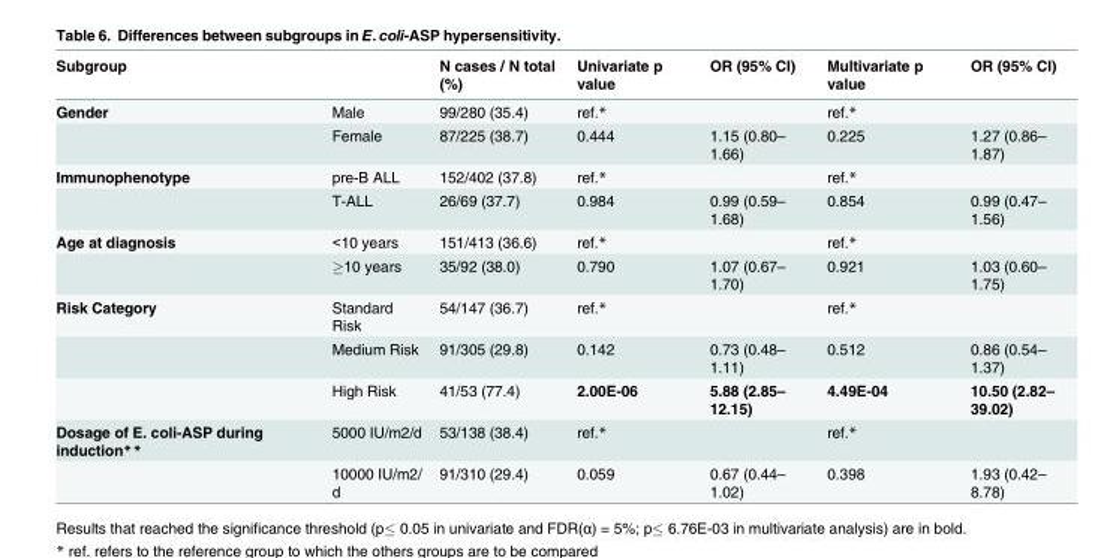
<table><thead><tr><td>Subgroup</td><td></td><td>N cases / N total (%)</td><td>Univariate p value</td><td>OR (95% CI)</td><td>Multivariate p value</td><td>OR (95% CI)</td></tr></thead><tbody><tr><td rowspan="2">Gender</td><td>Male</td><td>99/280 (35.4)</td><td>ref.*</td><td></td><td>ref.*</td><td></td></tr><tr><td>Female</td><td>87/225 (38.7)</td><td>0.444</td><td>1.15 (0.80– 1.66)</td><td>0.225</td><td>1.27 (0.86– 1.87)</td></tr><tr><td rowspan="2">Immunophenotype</td><td>pre-B ALL</td><td>152/402 (37.8)</td><td>ref.*</td><td></td><td>ref.*</td><td></td></tr><tr><td>T-ALL</td><td>26/69 (37.7)</td><td>0.984</td><td>0.99 (0.59– 1.68)</td><td>0.854</td><td>0.99 (0.47– 1.56)</td></tr><tr><td rowspan="2">Age at diagnosis</td><td>&lt;10 years</td><td>151/413 (36.6)</td><td>ref.*</td><td></td><td>ref.*</td><td></td></tr><tr><td>≥10 years</td><td>35/92 (38.0)</td><td>0.790</td><td>1.07 (0.67– 1.70)</td><td>0.921</td><td>1.03 (0.60– 1.75)</td></tr><tr><td rowspan="3">Risk Category</td><td>Standard Risk</td><td>54/147 (36.7)</td><td>ref.*</td><td></td><td>ref.*</td><td></td></tr><tr><td>Medium Risk</td><td>91/305 (29.8)</td><td>0.142</td><td>0.73 (0.48– 1.11)</td><td>0.512</td><td>0.86 (0.54– 1.37)</td></tr><tr><td>High Risk</td><td>41/53 (77.4)</td><td>2.00E-06</td><td>5.88 (2.85– 12.15)</td><td>4.49E-04</td><td>10.50 (2.82– 39.02)</td></tr><tr><td rowspan="2">Dosage of E. coli-ASP during induction**</td><td>5000 IU/m2/d</td><td>53/138 (38.4)</td><td>ref.*</td><td></td><td>ref.*</td><td></td></tr><tr><td>10000 IU/m2/ d</td><td>91/310 (29.4)</td><td>0.059</td><td>0.67 (0.44– 1.02)</td><td>0.398</td><td>1.93 (0.42– 8.78)</td></tr></tbody></table>